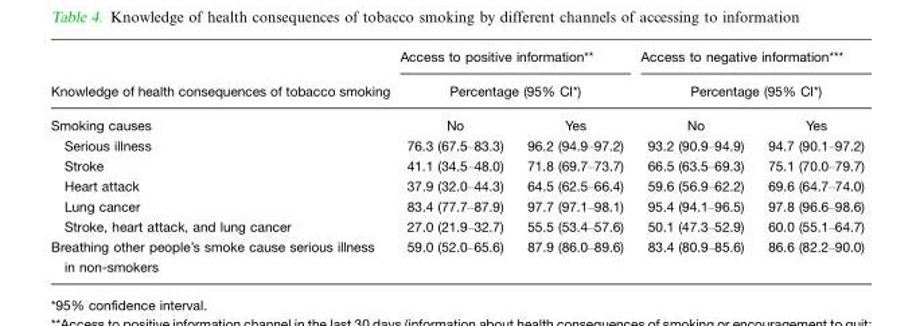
<table><thead><tr><td rowspan="3">Knowledge of health consequences of tobacco smoking Smoking causes</td><td rowspan="2" colspan="2">Access to positive information** Percentage (95% CI*)</td><td rowspan="2" colspan="2">Access to negative information*** Percentage (95% CI*)</td></tr><tr></tr><tr><td>No</td><td>Yes</td><td>No</td><td>Yes</td></tr></thead><tbody><tr><td>Serious illness</td><td>76.3 (67.5–83.3)</td><td>96.2 (94.9–97.2)</td><td>93.2 (90.9–94.9)</td><td>94.7 (90.1–97.2)</td></tr><tr><td>Stroke</td><td>41.1 (34.5–48.0)</td><td>71.8 (69.7–73.7)</td><td>66.5 (63.5–69.3)</td><td>75.1 (70.0–79.7)</td></tr><tr><td>Heart attack</td><td>37.9 (32.0–44.3)</td><td>64.5 (62.5–66.4)</td><td>59.6 (56.9–62.2)</td><td>69.6 (64.7–74.0)</td></tr><tr><td>Lung cancer</td><td>83.4 (77.7–87.9)</td><td>97.7 (97.1–98.1)</td><td>95.4 (94.1–96.5)</td><td>97.8 (96.6–98.6)</td></tr><tr><td>Stroke, heart attack, and lung cancer</td><td>27.0 (21.9–32.7)</td><td>55.5 (53.4–57.6)</td><td>50.1 (47.3–52.9)</td><td>60.0 (55.1–64.7)</td></tr><tr><td>Breathing other people’s smoke cause serious illness in non-smokers</td><td>59.0 (52.0–65.6)</td><td>87.9 (86.0–89.6)</td><td>83.4 (80.9–85.6)</td><td>86.6 (82.2–90.0)</td></tr></tbody></table>